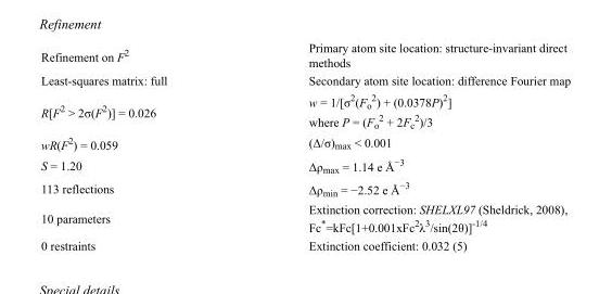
<table><tbody><tr><td>Refinement on F<sup>2</sup></td><td>Primary atom site location: structure-invariant direct methods</td></tr><tr><td>Least-squares matrix: full</td><td>Secondary atom site location: difference Fourier map</td></tr><tr><td>R[F<sup>2</sup> &gt; 2σ(F<sup>2</sup>)] = 0.026</td><td>w = 1/[σ<sup>2</sup>(F<sub>o</sub> <sup>2</sup>) + (0.0378P)<sup>2</sup>] where P = (F<sub>o</sub> <sup>2</sup> + 2F<sub>c</sub> <sup>2</sup>)/3</td></tr><tr><td>wR(F<sup>2</sup>) = 0.059</td><td>(Δ/σ)<sub>max</sub> &lt; 0.001</td></tr><tr><td>S = 1.20</td><td>Δρ<sub>max</sub> = 1.14 e Å<sup>−3</sup></td></tr><tr><td>113 reflections</td><td>Δρ<sub>min</sub> = −2.52 e Å<sup>−3</sup></td></tr><tr><td>10 parameters</td><td>Extinction correction: SHELXL97 (Sheldrick, 2008), Fc*=kFc[1+0.001xFc<sup>2</sup>λ<sup>3</sup>/sin(2θ)]<sup>-1/4</sup></td></tr><tr><td>0 restraints</td><td>Extinction coefficient: 0.032 (5)</td></tr></tbody></table>